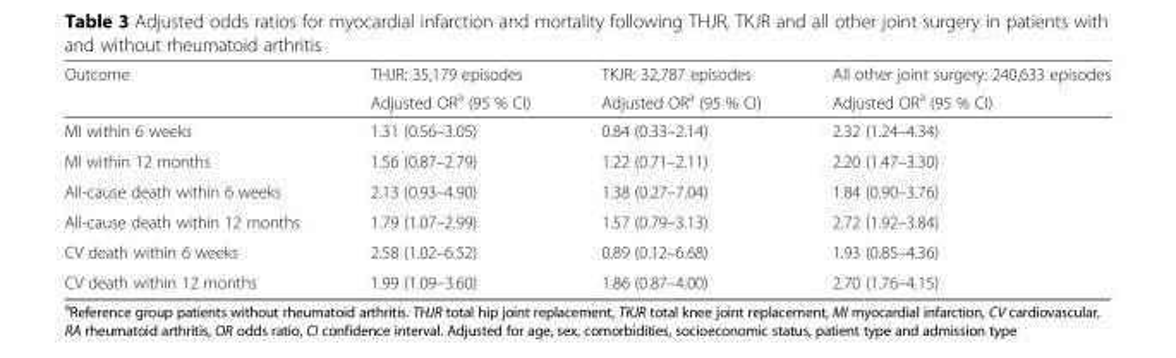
<table><thead><tr><td rowspan="2">Outcome</td><td rowspan="2">THJR: 35,179 episodes Adjusted OR<sup>a</sup> (95 % CI)</td><td rowspan="2">TKJR: 32,787 episodes Adjusted OR<sup>a</sup> (95 % CI)</td><td rowspan="2">All other joint surgery: 240,633 episodes Adjusted OR<sup>a</sup> (95 % CI)</td></tr><tr></tr></thead><tbody><tr><td>MI within 6 weeks</td><td>1.31 (0.56–3.05)</td><td>0.84 (0.33–2.14)</td><td>2.32 (1.24–4.34)</td></tr><tr><td>MI within 12 months</td><td>1.56 (0.87–2.79)</td><td>1.22 (0.71–2.11)</td><td>2.20 (1.47–3.30)</td></tr><tr><td>All-cause death within 6 weeks</td><td>2.13 (0.93–4.90)</td><td>1.38 (0.27–7.04)</td><td>1.84 (0.90–3.76)</td></tr><tr><td>All-cause death within 12 months</td><td>1.79 (1.07–2.99)</td><td>1.57 (0.79–3.13)</td><td>2.72 (1.92–3.84)</td></tr><tr><td>CV death within 6 weeks</td><td>2.58 (1.02–6.52)</td><td>0.89 (0.12–6.68)</td><td>1.93 (0.85–4.36)</td></tr><tr><td>CV death within 12 months</td><td>1.99 (1.09–3.60)</td><td>1.86 (0.87–4.00)</td><td>2.70 (1.76–4.15)</td></tr></tbody></table>